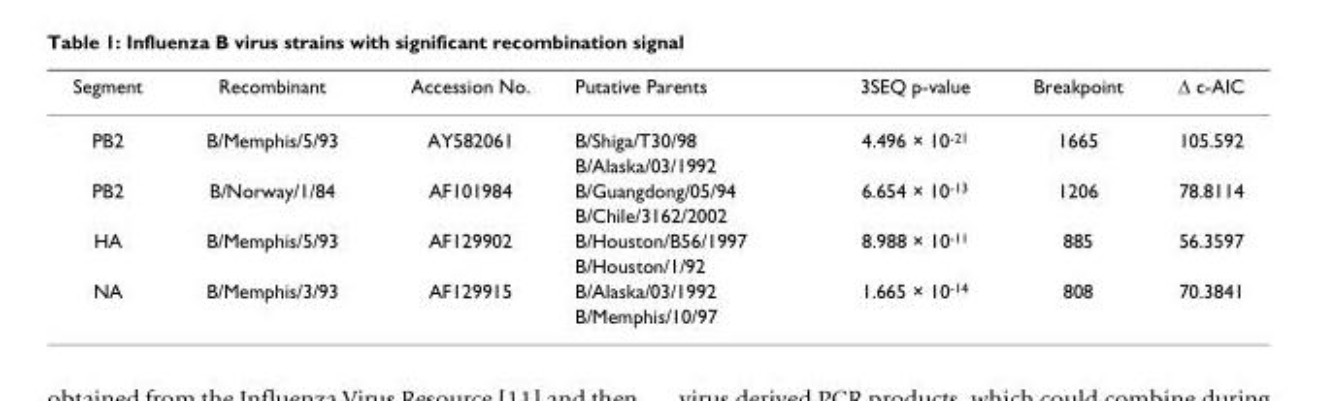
<table><thead><tr><td>Segment</td><td>Recombinant</td><td>Accession No.</td><td>Putative Parents</td><td>3SEQ p-value</td><td>Breakpoint</td><td>Δ c-AIC</td></tr></thead><tbody><tr><td rowspan="2">PB2</td><td>B/Memphis/5/93</td><td>AY582061</td><td>B/Shiga/T30/98</td><td>4.496 × 10<sup>-21</sup></td><td>1665</td><td>105.592</td></tr><tr><td></td><td></td><td>B/Alaska/03/1992</td><td></td><td></td><td></td></tr><tr><td rowspan="2">PB2</td><td>B/Norway/1/84</td><td>AF101984</td><td>B/Guangdong/05/94</td><td>6.654 × 10<sup>-13</sup></td><td>1206</td><td>78.8114</td></tr><tr><td></td><td></td><td>B/Chile/3162/2002</td><td></td><td></td><td></td></tr><tr><td rowspan="2">HA</td><td>B/Memphis/5/93</td><td>AF129902</td><td>B/Houston/B56/1997</td><td>8.988 × 10<sup>-11</sup></td><td>885</td><td>56.3597</td></tr><tr><td></td><td></td><td>B/Houston/1/92</td><td></td><td></td><td></td></tr><tr><td rowspan="2">NA</td><td>B/Memphis/3/93</td><td>AF129915</td><td>B/Alaska/03/1992</td><td>1.665 × 10<sup>-14</sup></td><td>808</td><td>70.3841</td></tr><tr><td></td><td></td><td>B/Memphis/10/97</td><td></td><td></td><td></td></tr></tbody></table>